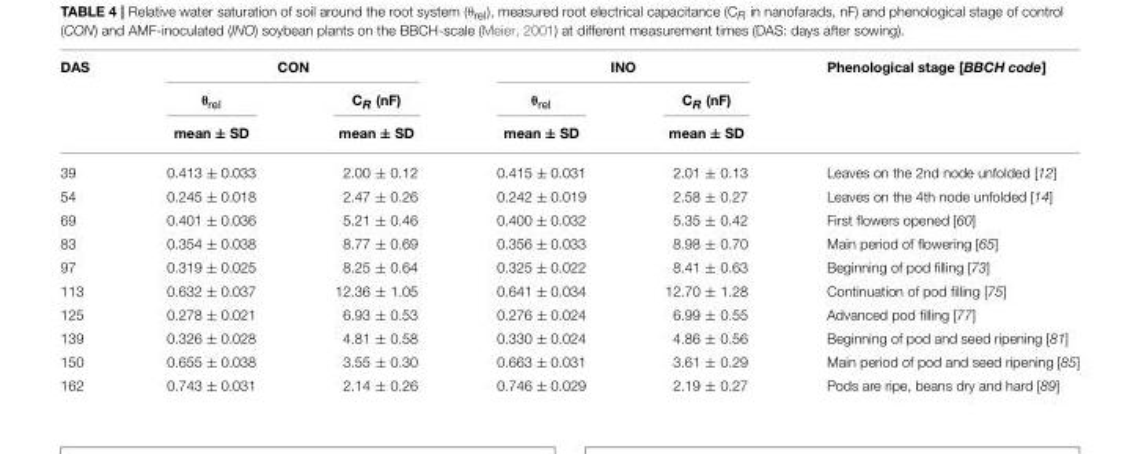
<table><thead><tr><td rowspan="3">DAS</td><td colspan="2">CON</td><td colspan="2">INO</td><td rowspan="3">Phenological stage [BBCH code]</td></tr><tr><td rowspan="2">θ<sub>rel</sub> mean ± SD</td><td rowspan="2">C<sub>R</sub> (nF) mean ± SD</td><td rowspan="2">θ<sub>rel</sub> mean ± SD</td><td rowspan="2">C<sub>R</sub> (nF) mean ± SD</td></tr><tr></tr></thead><tbody><tr><td>39</td><td>0.413 ± 0.033</td><td>2.00 ± 0.12</td><td>0.415 ± 0.031</td><td>2.01 ± 0.13</td><td>Leaves on the 2nd node unfolded [12]</td></tr><tr><td>54</td><td>0.245 ± 0.018</td><td>2.47 ± 0.26</td><td>0.242 ± 0.019</td><td>2.58 ± 0.27</td><td>Leaves on the 4th node unfolded [14]</td></tr><tr><td>69</td><td>0.401 ± 0.036</td><td>5.21 ± 0.46</td><td>0.400 ± 0.032</td><td>5.35 ± 0.42</td><td>First flowers opened [60]</td></tr><tr><td>83</td><td>0.354 ± 0.038</td><td>8.77 ± 0.69</td><td>0.356 ± 0.033</td><td>8.98 ± 0.70</td><td>Main period of flowering [65]</td></tr><tr><td>97</td><td>0.319 ± 0.025</td><td>8.25 ± 0.64</td><td>0.325 ± 0.022</td><td>8.41 ± 0.63</td><td>Beginning of pod filling [73]</td></tr><tr><td>113</td><td>0.632 ± 0.037</td><td>12.36 ± 1.05</td><td>0.641 ± 0.034</td><td>12.70 ± 1.28</td><td>Continuation of pod filling [75]</td></tr><tr><td>125</td><td>0.278 ± 0.021</td><td>6.93 ± 0.53</td><td>0.276 ± 0.024</td><td>6.99 ± 0.55</td><td>Advanced pod filling [77]</td></tr><tr><td>139</td><td>0.326 ± 0.028</td><td>4.81 ± 0.58</td><td>0.330 ± 0.024</td><td>4.86 ± 0.56</td><td>Beginning of pod and seed ripening [81]</td></tr><tr><td>150</td><td>0.655 ± 0.038</td><td>3.55 ± 0.30</td><td>0.663 ± 0.031</td><td>3.61 ± 0.29</td><td>Main period of pod and seed ripening [85]</td></tr><tr><td>162</td><td>0.743 ± 0.031</td><td>2.14 ± 0.26</td><td>0.746 ± 0.029</td><td>2.19 ± 0.27</td><td>Pods are ripe, beans dry and hard [89]</td></tr></tbody></table>